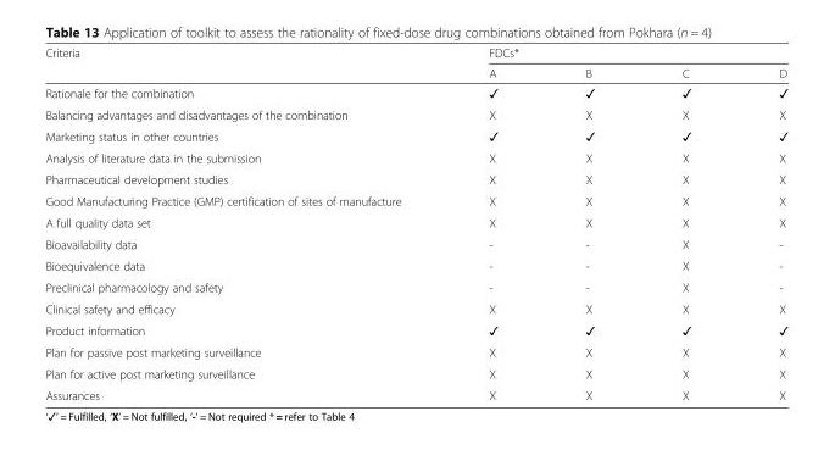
<table><thead><tr><td rowspan="2">Criteria</td><td colspan="4">FDCs*</td></tr><tr><td>A</td><td>B</td><td>C</td><td>D</td></tr></thead><tbody><tr><td>Rationale for the combination</td><td>✓</td><td>✓</td><td>✓</td><td>✓</td></tr><tr><td>Balancing advantages and disadvantages of the combination</td><td>X</td><td>X</td><td>X</td><td>X</td></tr><tr><td>Marketing status in other countries</td><td>✓</td><td>✓</td><td>✓</td><td>✓</td></tr><tr><td>Analysis of literature data in the submission</td><td>X</td><td>X</td><td>X</td><td>X</td></tr><tr><td>Pharmaceutical development studies</td><td>X</td><td>X</td><td>X</td><td>X</td></tr><tr><td>Good Manufacturing Practice (GMP) certification of sites of manufacture</td><td>X</td><td>X</td><td>X</td><td>X</td></tr><tr><td>A full quality data set</td><td>X</td><td>X</td><td>X</td><td>X</td></tr><tr><td>Bioavailability data</td><td>-</td><td>-</td><td>X</td><td>-</td></tr><tr><td>Bioequivalence data</td><td>-</td><td>-</td><td>X</td><td>-</td></tr><tr><td>Preclinical pharmacology and safety</td><td>-</td><td>-</td><td>X</td><td>-</td></tr><tr><td>Clinical safety and efficacy</td><td>X</td><td>X</td><td>X</td><td>X</td></tr><tr><td>Product information</td><td>✓</td><td>✓</td><td>✓</td><td>✓</td></tr><tr><td>Plan for passive post marketing surveillance</td><td>X</td><td>X</td><td>X</td><td>X</td></tr><tr><td>Plan for active post marketing surveillance</td><td>X</td><td>X</td><td>X</td><td>X</td></tr><tr><td>Assurances</td><td>X</td><td>X</td><td>X</td><td>X</td></tr></tbody></table>